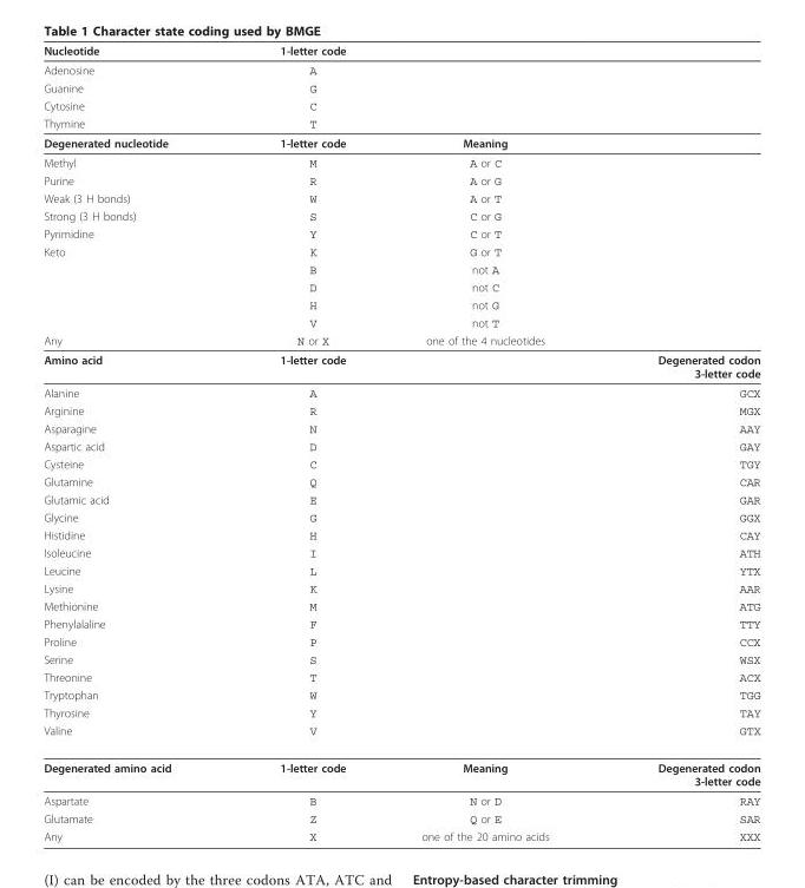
<table><thead><tr><td>Nucleotide</td><td>1-letter code</td><td></td><td></td></tr></thead><tbody><tr><td>Adenosine</td><td>A</td><td></td><td></td></tr><tr><td>Guanine</td><td>G</td><td></td><td></td></tr><tr><td>Cytosine</td><td>C</td><td></td><td></td></tr><tr><td>Thymine</td><td>T</td><td></td><td></td></tr><tr><td>Degenerated nucleotide</td><td>1-letter code</td><td>Meaning</td><td></td></tr><tr><td>Methyl</td><td>M</td><td>A or C</td><td></td></tr><tr><td>Purine</td><td>R</td><td>A or G</td><td></td></tr><tr><td>Weak (3 H bonds)</td><td>W</td><td>A or T</td><td></td></tr><tr><td>Strong (3 H bonds)</td><td>S</td><td>C or G</td><td></td></tr><tr><td>Pyrimidine</td><td>Y</td><td>C or T</td><td></td></tr><tr><td rowspan="5">Keto</td><td>K</td><td>G or T</td><td></td></tr><tr><td>B</td><td>not A</td><td></td></tr><tr><td>D</td><td>not C</td><td></td></tr><tr><td>H</td><td>not G</td><td></td></tr><tr><td>V</td><td>not T</td><td></td></tr><tr><td>Any</td><td>N or X</td><td>one of the 4 nucleotides</td><td></td></tr><tr><td>Amino acid</td><td>1-letter code</td><td></td><td>Degenerated codon 3-letter code</td></tr><tr><td>Alanine</td><td>A</td><td></td><td>GCX</td></tr><tr><td>Arginine</td><td>R</td><td></td><td>MGX</td></tr><tr><td>Asparagine</td><td>N</td><td></td><td>AAY</td></tr><tr><td>Aspartic acid</td><td>D</td><td></td><td>GAY</td></tr><tr><td>Cysteine</td><td>C</td><td></td><td>TGY</td></tr><tr><td>Glutamine</td><td>Q</td><td></td><td>CAR</td></tr><tr><td>Glutamic acid</td><td>E</td><td></td><td>GAR</td></tr><tr><td>Glycine</td><td>G</td><td></td><td>GGX</td></tr><tr><td>Histidine</td><td>H</td><td></td><td>CAY</td></tr><tr><td>Isoleucine</td><td>I</td><td></td><td>ATH</td></tr><tr><td>Leucine</td><td>L</td><td></td><td>YTX</td></tr><tr><td>Lysine</td><td>K</td><td></td><td>AAR</td></tr><tr><td>Methionine</td><td>M</td><td></td><td>ATG</td></tr><tr><td>Phenylalaline</td><td>F</td><td></td><td>TTY</td></tr><tr><td>Proline</td><td>P</td><td></td><td>CCX</td></tr><tr><td>Serine</td><td>S</td><td></td><td>WSX</td></tr><tr><td>Threonine</td><td>T</td><td></td><td>ACX</td></tr><tr><td>Tryptophan</td><td>W</td><td></td><td>TGG</td></tr><tr><td>Thyrosine</td><td>Y</td><td></td><td>TAY</td></tr><tr><td>Valine</td><td>V</td><td></td><td>GTX</td></tr><tr><td>Degenerated amino acid</td><td>1-letter code</td><td>Meaning</td><td>Degenerated codon 3-letter code</td></tr><tr><td>Aspartate</td><td>B</td><td>N or D</td><td>RAY</td></tr><tr><td>Glutamate</td><td>Z</td><td>Q or E</td><td>SAR</td></tr><tr><td>Any</td><td>X</td><td>one of the 20 amino acids</td><td>XXX</td></tr></tbody></table>